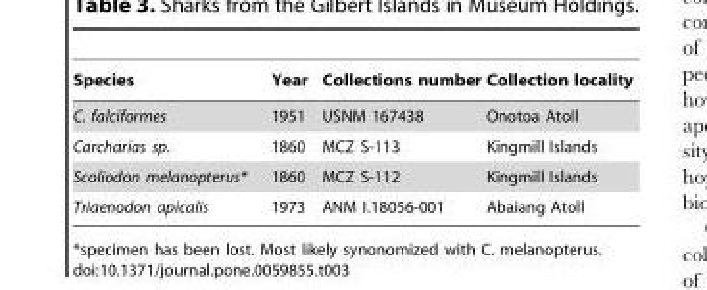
<table><thead><tr><td>Species</td><td>Year</td><td>Collections number</td><td>Collection locality</td></tr></thead><tbody><tr><td>C. falciformes</td><td>1951</td><td>USNM 167438</td><td>Onotoa Atoll</td></tr><tr><td>Carcharias sp.</td><td>1860</td><td>MCZ S-113</td><td>Kingmill Islands</td></tr><tr><td>Scoliodon melanopterus*</td><td>1860</td><td>MCZ S-112</td><td>Kingmill Islands</td></tr><tr><td>Triaenodon apicalis</td><td>1973</td><td>ANM I.18056-001</td><td>Abaiang Atoll</td></tr></tbody></table>